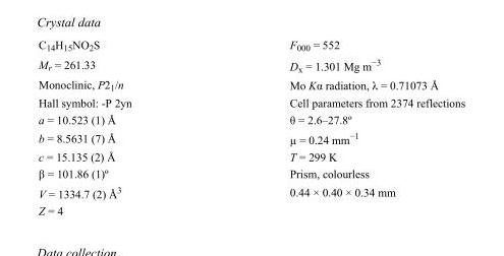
<table><tbody><tr><td>C<sub>14</sub>H<sub>15</sub>NO<sub>2</sub>S</td><td>F000 = 552</td></tr><tr><td>M<sub>r</sub> = 261.33</td><td>D<sub>x</sub> = 1.301 Mg m<sup>−3</sup></td></tr><tr><td>Monoclinic, P2<sub>1</sub>/n</td><td>Mo Kα radiation, λ = 0.71073 Å</td></tr><tr><td>Hall symbol: -P 2yn</td><td>Cell parameters from 2374 reflections</td></tr><tr><td>a = 10.523 (1) Å</td><td>θ = 2.6–27.8º</td></tr><tr><td>b = 8.5631 (7) Å</td><td>µ = 0.24 mm<sup>−1</sup></td></tr><tr><td>c = 15.135 (2) Å</td><td>T = 299 K</td></tr><tr><td>β = 101.86 (1)º</td><td>Prism, colourless</td></tr><tr><td>V = 1334.7 (2) Å<sup>3</sup></td><td>0.44 × 0.40 × 0.34 mm</td></tr><tr><td>Z = 4</td><td></td></tr></tbody></table>